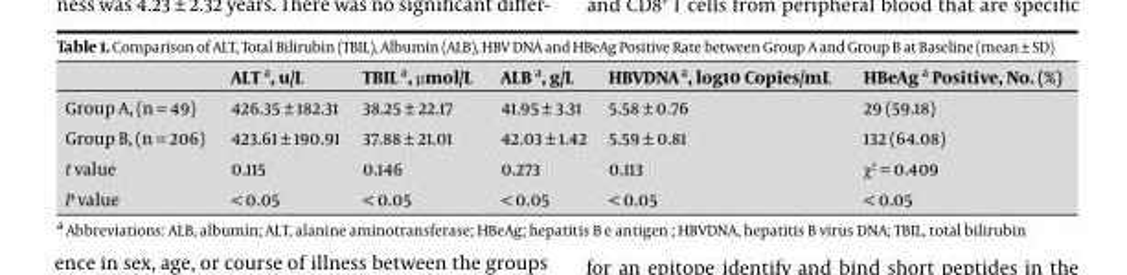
<table><thead><tr><td></td><td>ALT a, u/L</td><td>TBIL a, μmol/L</td><td>ALB a, g/L</td><td>HBVDNA a, log10 Copies/mL</td><td>HBeAg a Positive, No. (%)</td></tr></thead><tbody><tr><td>Group A, (n = 49)</td><td>426.35 ± 182.31</td><td>38.25 ± 22.17</td><td>41.95 ± 3.31</td><td>5.58 ± 0.76</td><td>29 (59.18)</td></tr><tr><td>Group B, (n = 206)</td><td>423.61 ± 190.91</td><td>37.88 ± 21.01</td><td>42.03 ± 1.42</td><td>5.59 ± 0.81</td><td>132 (64.08)</td></tr><tr><td>t value</td><td>0.115</td><td>0.146</td><td>0.273</td><td>0.113</td><td>χ2 = 0.409</td></tr><tr><td>P value</td><td>&lt; 0.05</td><td>&lt; 0.05</td><td>&lt; 0.05</td><td>&lt; 0.05</td><td>&lt; 0.05</td></tr></tbody></table>